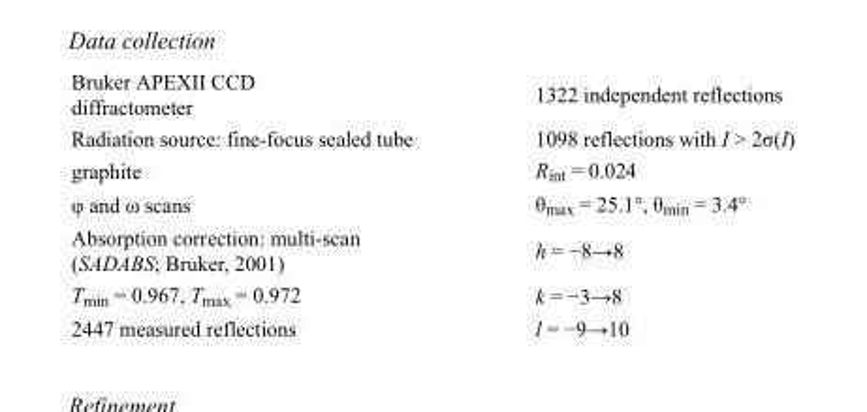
<table><tbody><tr><td>Bruker APEXII CCD diffractometer</td><td>1322 independent reflections</td></tr><tr><td>Radiation source: fine-focus sealed tube</td><td>1098 reflections with I &gt; 2σ(I)</td></tr><tr><td>graphite</td><td>R<sub>int</sub> = 0.024</td></tr><tr><td>φ and ω scans</td><td>θ<sub>max</sub> = 25.1°, θ<sub>min</sub> = 3.4°</td></tr><tr><td>Absorption correction: multi-scan (SADABS; Bruker, 2001)</td><td>h = −8→8</td></tr><tr><td>T<sub>min</sub> = 0.967, T<sub>max</sub> = 0.972</td><td>k = −3→8</td></tr><tr><td>2447 measured reflections</td><td>l = −9→10</td></tr></tbody></table>